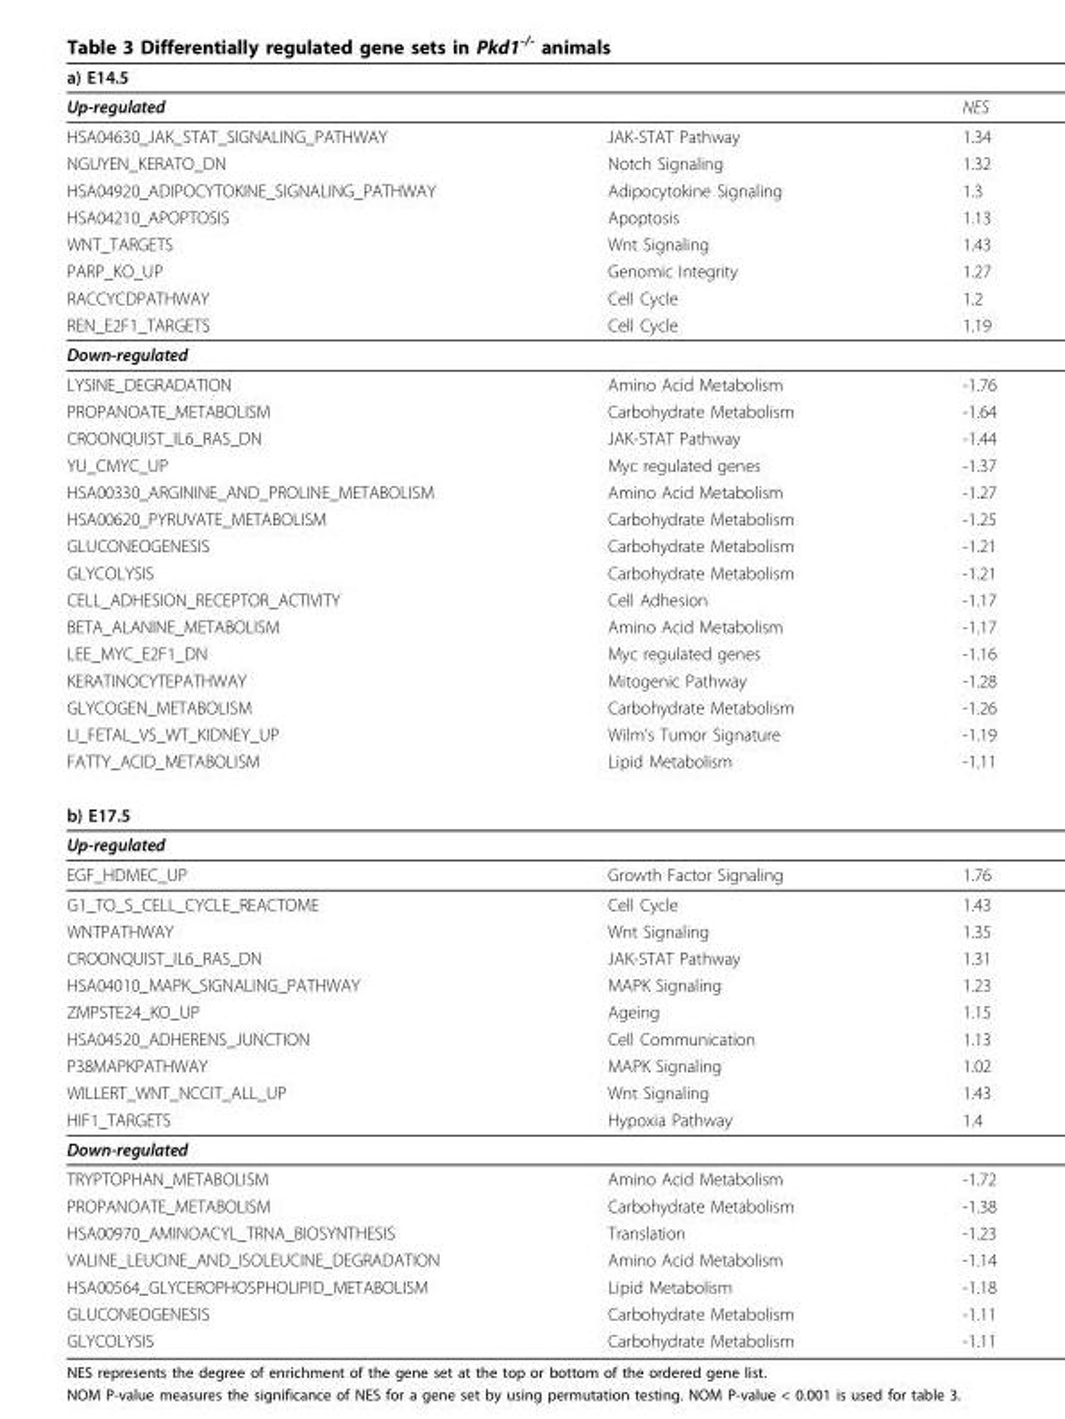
<table><thead><tr><td>a) E14.5</td><td></td><td></td></tr></thead><tbody><tr><td>Up-regulated</td><td></td><td>NES</td></tr><tr><td>HSA04630_JAK_STAT_SIGNALING_PATHWAY</td><td>JAK-STAT Pathway</td><td>1.34</td></tr><tr><td>NGUYEN_KERATO_DN</td><td>Notch Signaling</td><td>1.32</td></tr><tr><td>HSA04920_ADIPOCYTOKINE_SIGNALING_PATHWAY</td><td>Adipocytokine Signaling</td><td>1.3</td></tr><tr><td>HSA04210_APOPTOSIS</td><td>Apoptosis</td><td>1.13</td></tr><tr><td>WNT_TARGETS</td><td>Wnt Signaling</td><td>1.43</td></tr><tr><td>PARP_KO_UP</td><td>Genomic Integrity</td><td>1.27</td></tr><tr><td>RACCYCDPATHWAY</td><td>Cell Cycle</td><td>1.2</td></tr><tr><td>REN_E2F1_TARGETS</td><td>Cell Cycle</td><td>1.19</td></tr><tr><td colspan="3">Down-regulated</td></tr><tr><td>LYSINE_DEGRADATION</td><td>Amino Acid Metabolism</td><td>-1.76</td></tr><tr><td>PROPANOATE_METABOLISM</td><td>Carbohydrate Metabolism</td><td>-1.64</td></tr><tr><td>CROONQUIST_IL6_RAS_DN</td><td>JAK-STAT Pathway</td><td>-1.44</td></tr><tr><td>YU_CMYC_UP</td><td>Myc regulated genes</td><td>-1.37</td></tr><tr><td>HSA00330_ARGININE_AND_PROLINE_METABOLISM</td><td>Amino Acid Metabolism</td><td>-1.27</td></tr><tr><td>HSA00620_PYRUVATE_METABOLISM</td><td>Carbohydrate Metabolism</td><td>-1.25</td></tr><tr><td>GLUCONEOGENESIS</td><td>Carbohydrate Metabolism</td><td>-1.21</td></tr><tr><td>GLYCOLYSIS</td><td>Carbohydrate Metabolism</td><td>-1.21</td></tr><tr><td>CELL_ADHESION_RECEPTOR_ACTIVITY</td><td>Cell Adhesion</td><td>-1.17</td></tr><tr><td>BETA_ALANINE_METABOLISM</td><td>Amino Acid Metabolism</td><td>-1.17</td></tr><tr><td>LEE_MYC_E2F1_DN</td><td>Myc regulated genes</td><td>-1.16</td></tr><tr><td>KERATINOCYTEPATHWAY</td><td>Mitogenic Pathway</td><td>-1.28</td></tr><tr><td>GLYCOGEN_METABOLISM</td><td>Carbohydrate Metabolism</td><td>-1.26</td></tr><tr><td>LI_FETAL_VS_WT_KIDNEY_UP</td><td>Wilm’s Tumor Signature</td><td>-1.19</td></tr><tr><td>FATTY_ACID_METABOLISM</td><td>Lipid Metabolism</td><td>-1.11</td></tr><tr><td colspan="3">b) E17.5</td></tr><tr><td colspan="3">Up-regulated</td></tr><tr><td>EGF_HDMEC_UP</td><td>Growth Factor Signaling</td><td>1.76</td></tr><tr><td>G1_TO_S_CELL_CYCLE_REACTOME</td><td>Cell Cycle</td><td>1.43</td></tr><tr><td>WNTPATHWAY</td><td>Wnt Signaling</td><td>1.35</td></tr><tr><td>CROONQUIST_IL6_RAS_DN</td><td>JAK-STAT Pathway</td><td>1.31</td></tr><tr><td>HSA04010_MAPK_SIGNALING_PATHWAY</td><td>MAPK Signaling</td><td>1.23</td></tr><tr><td>ZMPSTE24_KO_UP</td><td>Ageing</td><td>1.15</td></tr><tr><td>HSA04520_ADHERENS_JUNCTION</td><td>Cell Communication</td><td>1.13</td></tr><tr><td>P38MAPKPATHWAY</td><td>MAPK Signaling</td><td>1.02</td></tr><tr><td>WILLERT_WNT_NCCIT_ALL_UP</td><td>Wnt Signaling</td><td>1.43</td></tr><tr><td>HIF1_TARGETS</td><td>Hypoxia Pathway</td><td>1.4</td></tr><tr><td colspan="3">Down-regulated</td></tr><tr><td>TRYPTOPHAN_METABOLISM</td><td>Amino Acid Metabolism</td><td>-1.72</td></tr><tr><td>PROPANOATE_METABOLISM</td><td>Carbohydrate Metabolism</td><td>-1.38</td></tr><tr><td>HSA00970_AMINOACYL_TRNA_BIOSYNTHESIS</td><td>Translation</td><td>-1.23</td></tr><tr><td>VALINE_LEUCINE_AND_ISOLEUCINE_DEGRADATION</td><td>Amino Acid Metabolism</td><td>-1.14</td></tr><tr><td>HSA00564_GLYCEROPHOSPHOLIPID_METABOLISM</td><td>Lipid Metabolism</td><td>-1.18</td></tr><tr><td>GLUCONEOGENESIS</td><td>Carbohydrate Metabolism</td><td>-1.11</td></tr><tr><td>GLYCOLYSIS</td><td>Carbohydrate Metabolism</td><td>-1.11</td></tr></tbody></table>